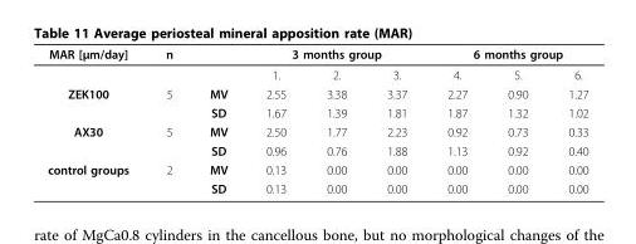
<table><thead><tr><td rowspan="2">MAR [μm/day]</td><td rowspan="2">n</td><td rowspan="2"></td><td colspan="3">3 months group</td><td colspan="3">6 months group</td></tr><tr><td>1.</td><td>2.</td><td>3.</td><td>4.</td><td>5.</td><td>6.</td></tr></thead><tbody><tr><td rowspan="2">ZEK100</td><td>5</td><td>MV</td><td>2.55</td><td>3.38</td><td>3.37</td><td>2.27</td><td>0.90</td><td>1.27</td></tr><tr><td></td><td>SD</td><td>1.67</td><td>1.39</td><td>1.81</td><td>1.87</td><td>1.32</td><td>1.02</td></tr><tr><td rowspan="2">AX30</td><td>5</td><td>MV</td><td>2.50</td><td>1.77</td><td>2.23</td><td>0.92</td><td>0.73</td><td>0.33</td></tr><tr><td></td><td>SD</td><td>0.96</td><td>0.76</td><td>1.88</td><td>1.13</td><td>0.92</td><td>0.40</td></tr><tr><td rowspan="2">control groups</td><td>2</td><td>MV</td><td>0.13</td><td>0.00</td><td>0.00</td><td>0.00</td><td>0.00</td><td>0.00</td></tr><tr><td></td><td>SD</td><td>0.13</td><td>0.00</td><td>0.00</td><td>0.00</td><td>0.00</td><td>0.00</td></tr></tbody></table>